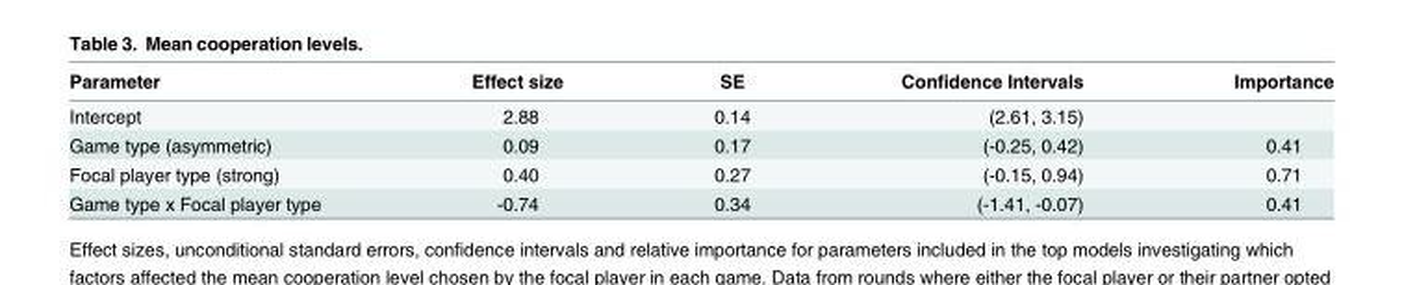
<table><thead><tr><td>Parameter</td><td>Effect size</td><td>SE</td><td>Confidence Intervals</td><td>Importance</td></tr></thead><tbody><tr><td>Intercept</td><td>2.88</td><td>0.14</td><td>(2.61, 3.15)</td><td></td></tr><tr><td>Game type (asymmetric)</td><td>0.09</td><td>0.17</td><td>(-0.25, 0.42)</td><td>0.41</td></tr><tr><td>Focal player type (strong)</td><td>0.40</td><td>0.27</td><td>(-0.15, 0.94)</td><td>0.71</td></tr><tr><td>Game type x Focal player type</td><td>-0.74</td><td>0.34</td><td>(-1.41, -0.07)</td><td>0.41</td></tr></tbody></table>